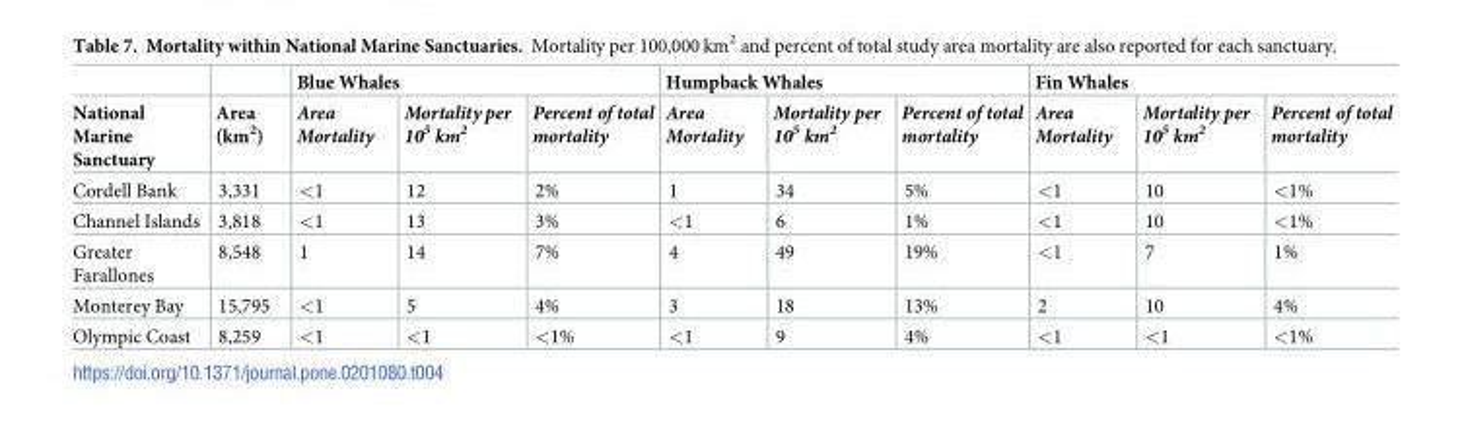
<table><thead><tr><td rowspan="2">National Marine Sanctuary</td><td rowspan="2">Area (km<sup>2</sup>)</td><td colspan="3">Blue Whales</td><td colspan="3">Humpback Whales</td><td colspan="3">Fin Whales</td></tr><tr><td>Area Mortality</td><td>Mortality per 10<sup>5</sup> km<sup>2</sup></td><td>Percent of total mortality</td><td>Area Mortality</td><td>Mortality per 10<sup>5</sup> km<sup>2</sup></td><td>Percent of total mortality</td><td>Area Mortality</td><td>Mortality per 10<sup>5</sup> km<sup>2</sup></td><td>Percent of total mortality</td></tr></thead><tbody><tr><td>Cordell Bank</td><td>3,331</td><td>&lt;1</td><td>12</td><td>2%</td><td>1</td><td>34</td><td>5%</td><td>&lt;1</td><td>10</td><td>&lt;1%</td></tr><tr><td>Channel Islands</td><td>3,818</td><td>&lt;1</td><td>13</td><td>3%</td><td>&lt;1</td><td>6</td><td>1%</td><td>&lt;1</td><td>10</td><td>&lt;1%</td></tr><tr><td>Greater Farallones</td><td>8,548</td><td>1</td><td>14</td><td>7%</td><td>4</td><td>49</td><td>19%</td><td>&lt;1</td><td>7</td><td>1%</td></tr><tr><td>Monterey Bay</td><td>15,795</td><td>&lt;1</td><td>5</td><td>4%</td><td>3</td><td>18</td><td>13%</td><td>2</td><td>10</td><td>4%</td></tr><tr><td>Olympic Coast</td><td>8,259</td><td>&lt;1</td><td>&lt;1</td><td>&lt;1%</td><td>&lt;1</td><td>9</td><td>4%</td><td>&lt;1</td><td>&lt;1</td><td>&lt;1%</td></tr></tbody></table>